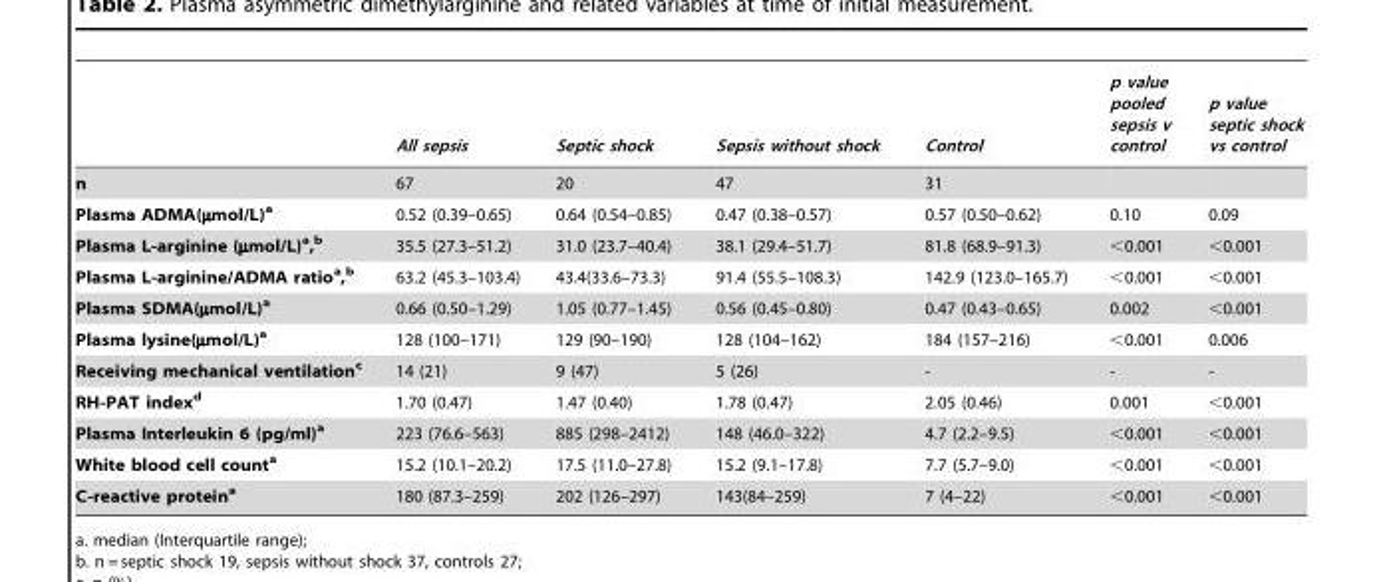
<table><thead><tr><td></td><td>All sepsis</td><td>Septic shock</td><td>Sepsis without shock</td><td>Control</td><td>p value pooled sepsis v control</td><td>p value septic shock vs control</td></tr></thead><tbody><tr><td>n</td><td>67</td><td>20</td><td>47</td><td>31</td><td></td><td></td></tr><tr><td>Plasma ADMA(µmol/L)a</td><td>0.52 (0.39–0.65)</td><td>0.64 (0.54–0.85)</td><td>0.47 (0.38–0.57)</td><td>0.57 (0.50–0.62)</td><td>0.10</td><td>0.09</td></tr><tr><td>Plasma L-arginine (µmol/L)a,b</td><td>35.5 (27.3–51.2)</td><td>31.0 (23.7–40.4)</td><td>38.1 (29.4–51.7)</td><td>81.8 (68.9–91.3)</td><td>&lt;0.001</td><td>&lt;0.001</td></tr><tr><td>Plasma L-arginine/ADMA ratioa,b</td><td>63.2 (45.3–103.4)</td><td>43.4(33.6–73.3)</td><td>91.4 (55.5–108.3)</td><td>142.9 (123.0–165.7)</td><td>&lt;0.001</td><td>&lt;0.001</td></tr><tr><td>Plasma SDMA(µmol/L)a</td><td>0.66 (0.50–1.29)</td><td>1.05 (0.77–1.45)</td><td>0.56 (0.45–0.80)</td><td>0.47 (0.43–0.65)</td><td>0.002</td><td>&lt;0.001</td></tr><tr><td>Plasma lysine(µmol/L)a</td><td>128 (100–171)</td><td>129 (90–190)</td><td>128 (104–162)</td><td>184 (157–216)</td><td>&lt;0.001</td><td>0.006</td></tr><tr><td>Receiving mechanical ventilationc</td><td>14 (21)</td><td>9 (47)</td><td>5 (26)</td><td>-</td><td>-</td><td>-</td></tr><tr><td>RH-PAT indexd</td><td>1.70 (0.47)</td><td>1.47 (0.40)</td><td>1.78 (0.47)</td><td>2.05 (0.46)</td><td>0.001</td><td>&lt;0.001</td></tr><tr><td>Plasma Interleukin 6 (pg/ml)a</td><td>223 (76.6–563)</td><td>885 (298–2412)</td><td>148 (46.0–322)</td><td>4.7 (2.2–9.5)</td><td>&lt;0.001</td><td>&lt;0.001</td></tr><tr><td>White blood cell counta</td><td>15.2 (10.1–20.2)</td><td>17.5 (11.0–27.8)</td><td>15.2 (9.1–17.8)</td><td>7.7 (5.7–9.0)</td><td>&lt;0.001</td><td>&lt;0.001</td></tr><tr><td>C-reactive proteina</td><td>180 (87.3–259)</td><td>202 (126–297)</td><td>143(84–259)</td><td>7 (4–22)</td><td>&lt;0.001</td><td>&lt;0.001</td></tr></tbody></table>